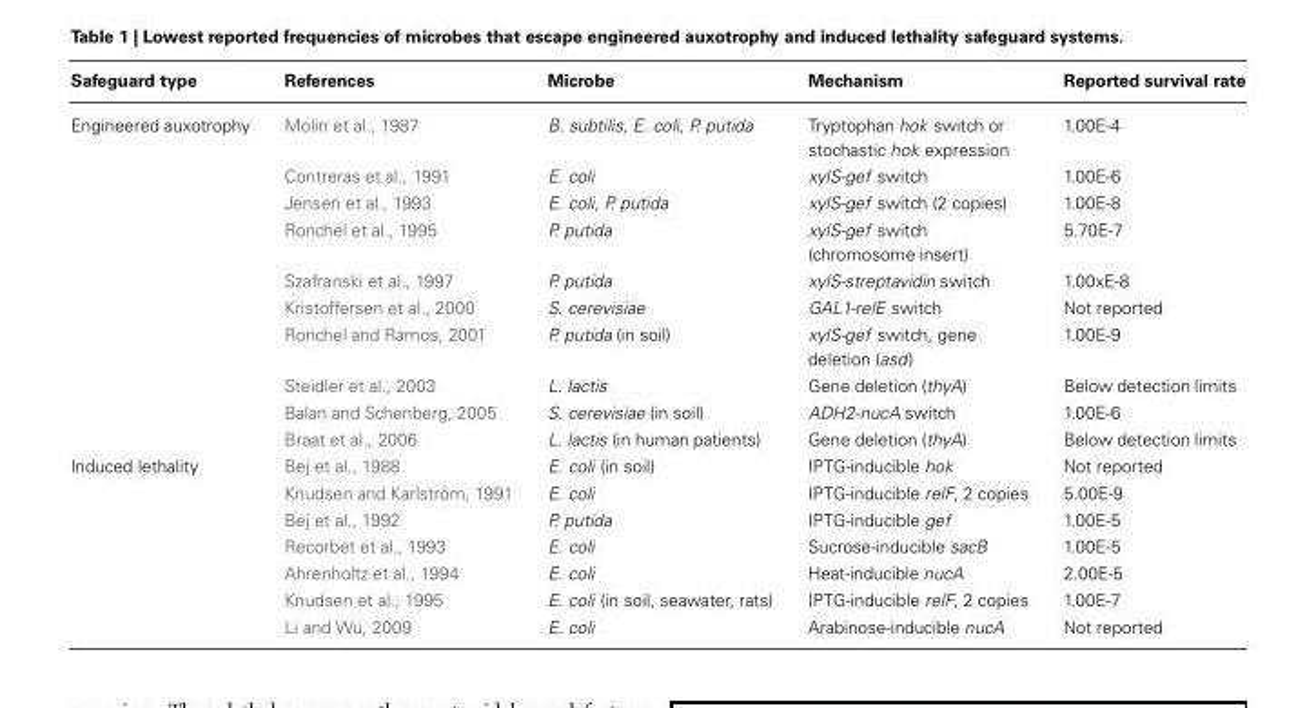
<table><thead><tr><td>Safeguard type</td><td>References</td><td>Microbe</td><td>Mechanism</td><td>Reported survival rate</td></tr></thead><tbody><tr><td rowspan="10">Engineered auxotrophy</td><td>Molin et al., 1987</td><td>B. subtilis, E. coli, P. putida</td><td>Tryptophan hok switch or stochastic hok expression</td><td>1.00E-4</td></tr><tr><td>Contreras et al., 1991</td><td>E. coli</td><td>xylS-gef switch</td><td>1.00E-6</td></tr><tr><td>Jensen et al., 1993</td><td>E. coli, P. putida</td><td>xylS-gef switch (2 copies)</td><td>1.00E-8</td></tr><tr><td>Ronchel et al., 1995</td><td>P. putida</td><td>xylS-gef switch (chromosome insert)</td><td>5.70E-7</td></tr><tr><td>Szafranski et al., 1997</td><td>P. putida</td><td>xylS-streptavidin switch</td><td>1.00xE-8</td></tr><tr><td>Kristoffersen et al., 2000</td><td>S. cerevisiae</td><td>GAL1-relE switch</td><td>Not reported</td></tr><tr><td>Ronchel and Ramos, 2001</td><td>P. putida (in soil)</td><td>xylS-gef switch, gene deletion (asd)</td><td>1.00E-9</td></tr><tr><td>Steidler et al., 2003</td><td>L. lactis</td><td>Gene deletion (thyA)</td><td>Below detection limits</td></tr><tr><td>Balan and Schenberg, 2005</td><td>S. cerevisiae (in soil)</td><td>ADH2-nucA switch</td><td>1.00E-6</td></tr><tr><td>Braat et al., 2006</td><td>L. lactis (in human patients)</td><td>Gene deletion (thyA)</td><td>Below detection limits</td></tr><tr><td rowspan="7">Induced lethality</td><td>Bej et al., 1988</td><td>E. coli (in soil)</td><td>IPTG-inducible hok</td><td>Not reported</td></tr><tr><td>Knudsen and Karlström, 1991</td><td>E. coli</td><td>IPTG-inducible relF, 2 copies</td><td>5.00E-9</td></tr><tr><td>Bej et al., 1992</td><td>P. putida</td><td>IPTG-inducible gef</td><td>1.00E-5</td></tr><tr><td>Recorbet et al., 1993</td><td>E. coli</td><td>Sucrose-inducible sacB</td><td>1.00E-5</td></tr><tr><td>Ahrenholtz et al., 1994</td><td>E. coli</td><td>Heat-inducible nucA</td><td>2.00E-5</td></tr><tr><td>Knudsen et al., 1995</td><td>E. coli (in soil, seawater, rats)</td><td>IPTG-inducible relF, 2 copies</td><td>1.00E-7</td></tr><tr><td>Li and Wu, 2009</td><td>E. coli</td><td>Arabinose-inducible nucA</td><td>Not reported</td></tr></tbody></table>